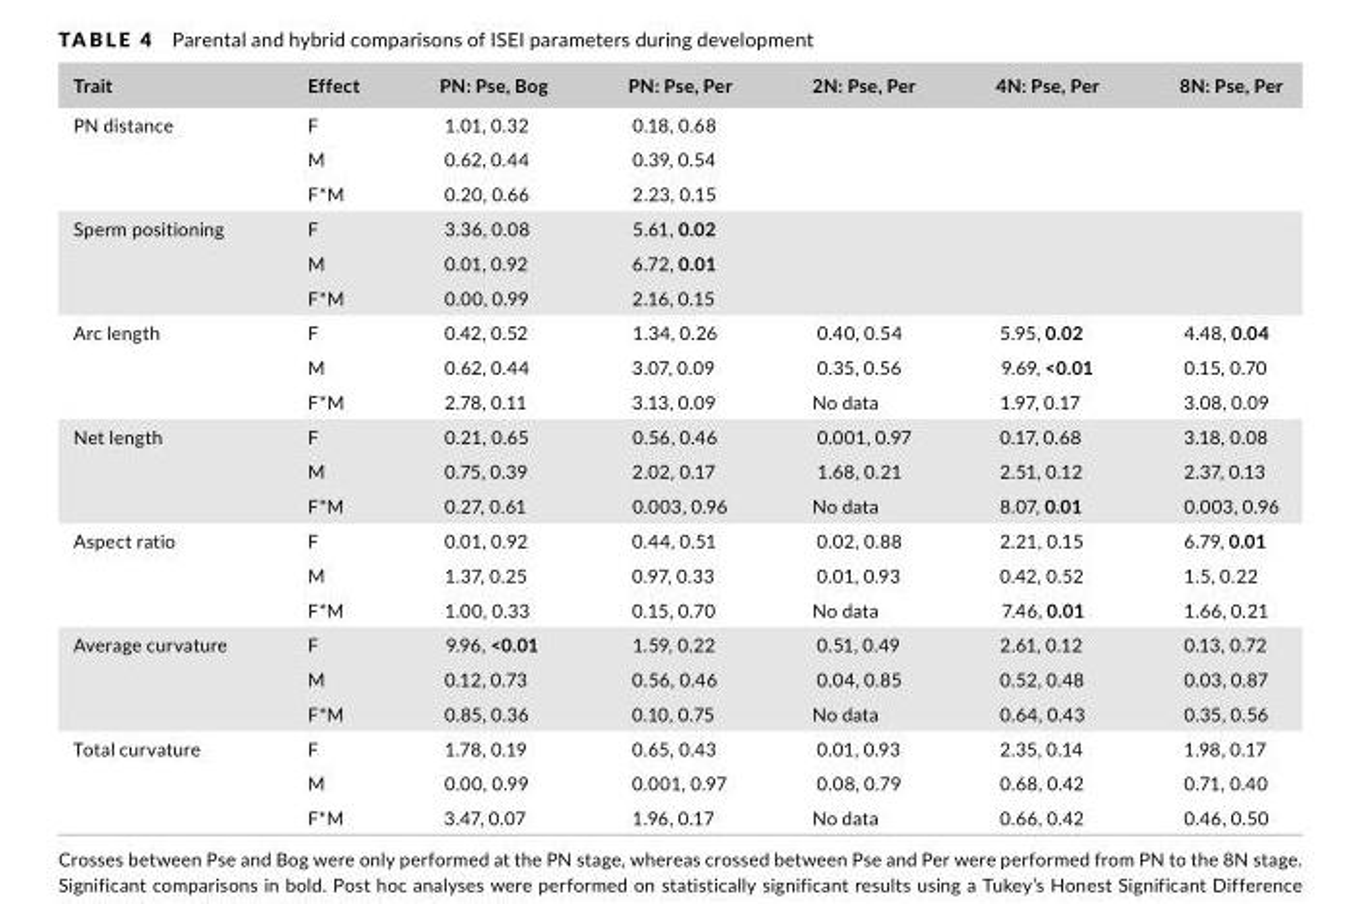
<table><thead><tr><td>Trait</td><td>Effect</td><td>PN: Pse, Bog</td><td>PN: Pse, Per</td><td>2N: Pse, Per</td><td>4N: Pse, Per</td><td>8N: Pse, Per</td></tr></thead><tbody><tr><td rowspan="3">PN distance</td><td>F</td><td>1.01, 0.32</td><td>0.18, 0.68</td><td></td><td></td><td></td></tr><tr><td>M</td><td>0.62, 0.44</td><td>0.39, 0.54</td><td></td><td></td><td></td></tr><tr><td>F*M</td><td>0.20, 0.66</td><td>2.23, 0.15</td><td></td><td></td><td></td></tr><tr><td rowspan="3">Sperm positioning</td><td>F</td><td>3.36, 0.08</td><td>5.61, 0.02</td><td></td><td></td><td></td></tr><tr><td>M</td><td>0.01, 0.92</td><td>6.72, 0.01</td><td></td><td></td><td></td></tr><tr><td>F*M</td><td>0.00, 0.99</td><td>2.16, 0.15</td><td></td><td></td><td></td></tr><tr><td rowspan="3">Arc length</td><td>F</td><td>0.42, 0.52</td><td>1.34, 0.26</td><td>0.40, 0.54</td><td>5.95, 0.02</td><td>4.48, 0.04</td></tr><tr><td>M</td><td>0.62, 0.44</td><td>3.07, 0.09</td><td>0.35, 0.56</td><td>9.69, &lt;0.01</td><td>0.15, 0.70</td></tr><tr><td>F*M</td><td>2.78, 0.11</td><td>3.13, 0.09</td><td>No data</td><td>1.97, 0.17</td><td>3.08, 0.09</td></tr><tr><td rowspan="3">Net length</td><td>F</td><td>0.21, 0.65</td><td>0.56, 0.46</td><td>0.001, 0.97</td><td>0.17, 0.68</td><td>3.18, 0.08</td></tr><tr><td>M</td><td>0.75, 0.39</td><td>2.02, 0.17</td><td>1.68, 0.21</td><td>2.51, 0.12</td><td>2.37, 0.13</td></tr><tr><td>F*M</td><td>0.27, 0.61</td><td>0.003, 0.96</td><td>No data</td><td>8.07, 0.01</td><td>0.003, 0.96</td></tr><tr><td rowspan="3">Aspect ratio</td><td>F</td><td>0.01, 0.92</td><td>0.44, 0.51</td><td>0.02, 0.88</td><td>2.21, 0.15</td><td>6.79, 0.01</td></tr><tr><td>M</td><td>1.37, 0.25</td><td>0.97, 0.33</td><td>0.01, 0.93</td><td>0.42, 0.52</td><td>1.5, 0.22</td></tr><tr><td>F*M</td><td>1.00, 0.33</td><td>0.15, 0.70</td><td>No data</td><td>7.46, 0.01</td><td>1.66, 0.21</td></tr><tr><td rowspan="3">Average curvature</td><td>F</td><td>9.96, &lt;0.01</td><td>1.59, 0.22</td><td>0.51, 0.49</td><td>2.61, 0.12</td><td>0.13, 0.72</td></tr><tr><td>M</td><td>0.12, 0.73</td><td>0.56, 0.46</td><td>0.04, 0.85</td><td>0.52, 0.48</td><td>0.03, 0.87</td></tr><tr><td>F*M</td><td>0.85, 0.36</td><td>0.10, 0.75</td><td>No data</td><td>0.64, 0.43</td><td>0.35, 0.56</td></tr><tr><td rowspan="3">Total curvature</td><td>F</td><td>1.78, 0.19</td><td>0.65, 0.43</td><td>0.01, 0.93</td><td>2.35, 0.14</td><td>1.98, 0.17</td></tr><tr><td>M</td><td>0.00, 0.99</td><td>0.001, 0.97</td><td>0.08, 0.79</td><td>0.68, 0.42</td><td>0.71, 0.40</td></tr><tr><td>F*M</td><td>3.47, 0.07</td><td>1.96, 0.17</td><td>No data</td><td>0.66, 0.42</td><td>0.46, 0.50</td></tr></tbody></table>